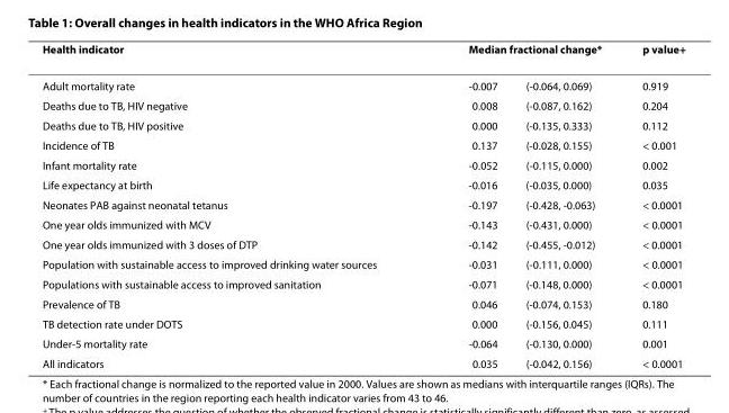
<table><thead><tr><td rowspan="2">Health indicator Adult mortality rate</td><td colspan="2">Median fractional change*</td><td rowspan="2">p value<sup>+</sup> 0.919</td></tr><tr><td>-0.007</td><td>(-0.064, 0.069)</td></tr></thead><tbody><tr><td>Deaths due to TB, HIV negative</td><td>0.008</td><td>(-0.087, 0.162)</td><td>0.204</td></tr><tr><td>Deaths due to TB, HIV positive</td><td>0.000</td><td>(-0.135, 0.333)</td><td>0.112</td></tr><tr><td>Incidence of TB</td><td>0.137</td><td>(-0.028, 0.155)</td><td>&lt; 0.001</td></tr><tr><td>Infant mortality rate</td><td>-0.052</td><td>(-0.115, 0.000)</td><td>0.002</td></tr><tr><td>Life expectancy at birth</td><td>-0.016</td><td>(-0.035, 0.000)</td><td>0.035</td></tr><tr><td>Neonates PAB against neonatal tetanus</td><td>-0.197</td><td>(-0.428, -0.063)</td><td>&lt; 0.0001</td></tr><tr><td>One year olds immunized with MCV</td><td>-0.143</td><td>(-0.431, 0.000)</td><td>&lt; 0.0001</td></tr><tr><td>One year olds immunized with 3 doses of DTP</td><td>-0.142</td><td>(-0.455, -0.012)</td><td>&lt; 0.0001</td></tr><tr><td>Population with sustainable access to improved drinking water sources</td><td>-0.031</td><td>(-0.111, 0.000)</td><td>&lt; 0.0001</td></tr><tr><td>Populations with sustainable access to improved sanitation</td><td>-0.071</td><td>(-0.148, 0.000)</td><td>&lt; 0.0001</td></tr><tr><td>Prevalence of TB</td><td>0.046</td><td>(-0.074, 0.153)</td><td>0.180</td></tr><tr><td>TB detection rate under DOTS</td><td>0.000</td><td>(-0.156, 0.045)</td><td>0.111</td></tr><tr><td>Under-5 mortality rate</td><td>-0.064</td><td>(-0.130, 0.000)</td><td>0.001</td></tr><tr><td>All indicators</td><td>0.035</td><td>(-0.042, 0.156)</td><td>&lt; 0.0001</td></tr></tbody></table>